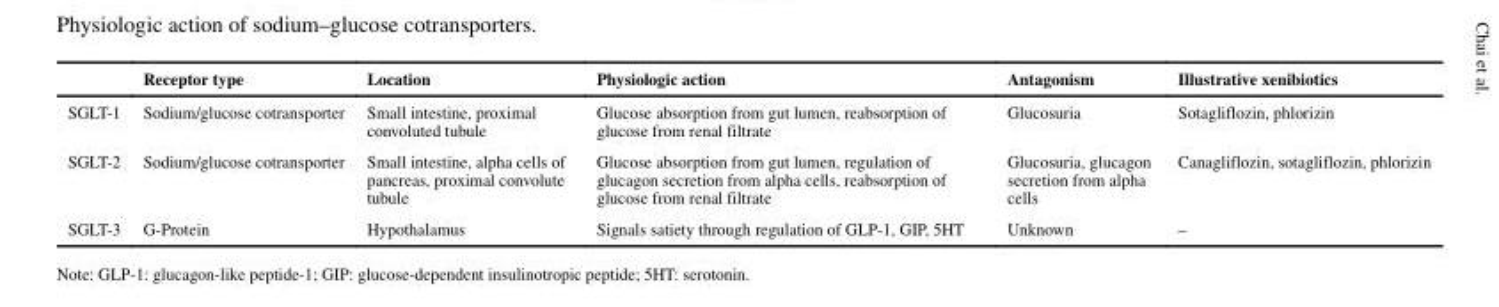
<table><thead><tr><td></td><td>Receptor type</td><td>Location</td><td>Physiologic action</td><td>Antagonism</td><td>Illustrative xenibiotics</td></tr></thead><tbody><tr><td>SGLT-1</td><td>Sodium/glucose cotransporter</td><td>Small intestine, proximal convoluted tubule</td><td>Glucose absorption from gut lumen, reabsorption of glucose from renal filtrate</td><td>Glucosuria</td><td>Sotagliflozin, phlorizin</td></tr><tr><td>SGLT-2</td><td>Sodium/glucose cotransporter</td><td>Small intestine, alpha cells of pancreas, proximal convolute tubule</td><td>Glucose absorption from gut lumen, regulation of glucagon secretion from alpha cells, reabsorption of glucose from renal filtrate</td><td>Glucosuria, glucagon secretion from alpha cells</td><td>Canagliflozin, sotagliflozin, phlorizin</td></tr><tr><td>SGLT-3</td><td>G-Protein</td><td>Hypothalamus</td><td>Signals satiety through regulation of GLP-1, GIP, 5HT</td><td>Unknown</td><td>–</td></tr></tbody></table>